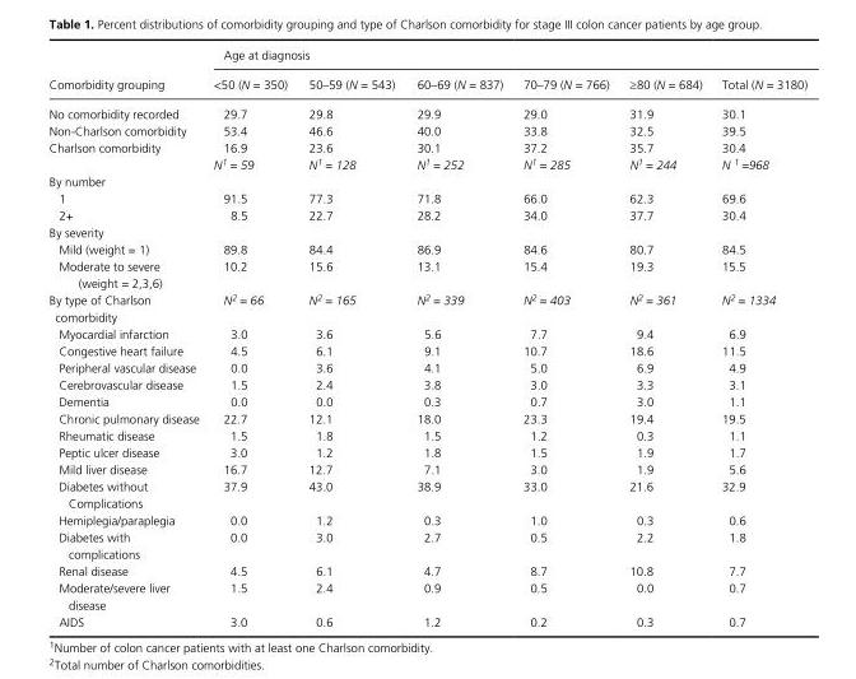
<table><thead><tr><td rowspan="2">Comorbidity grouping</td><td colspan="6">Age at diagnosis</td></tr><tr><td>&lt;50 (N = 350)</td><td>50–59 (N = 543)</td><td>60–69 (N = 837)</td><td>70–79 (N = 766)</td><td>≥80 (N = 684)</td><td>Total (N = 3180)</td></tr></thead><tbody><tr><td>No comorbidity recorded</td><td>29.7</td><td>29.8</td><td>29.9</td><td>29.0</td><td>31.9</td><td>30.1</td></tr><tr><td>Non- Charlson comorbidity</td><td>53.4</td><td>46.6</td><td>40.0</td><td>33.8</td><td>32.5</td><td>39.5</td></tr><tr><td rowspan="2">Charlson comorbidity</td><td>16.9</td><td>23.6</td><td>30.1</td><td>37.2</td><td>35.7</td><td>30.4</td></tr><tr><td>N1 = 59</td><td>N1 = 128</td><td>N1 = 252</td><td>N1 = 285</td><td>N1 = 244</td><td>N 1 =968</td></tr><tr><td colspan="7">By number</td></tr><tr><td>1</td><td>91.5</td><td>77.3</td><td>71.8</td><td>66.0</td><td>62.3</td><td>69.6</td></tr><tr><td>2+</td><td>8.5</td><td>22.7</td><td>28.2</td><td>34.0</td><td>37.7</td><td>30.4</td></tr><tr><td colspan="7">By severity</td></tr><tr><td>Mild (weight = 1)</td><td>89.8</td><td>84.4</td><td>86.9</td><td>84.6</td><td>80.7</td><td>84.5</td></tr><tr><td>Moderate to severe (weight = 2,3,6)</td><td>10.2</td><td>15.6</td><td>13.1</td><td>15.4</td><td>19.3</td><td>15.5</td></tr><tr><td>By type of Charlson comorbidity</td><td>N2 = 66</td><td>N2 = 165</td><td>N2 = 339</td><td>N2 = 403</td><td>N2 = 361</td><td>N2 = 1334</td></tr><tr><td>Myocardial infarction</td><td>3.0</td><td>3.6</td><td>5.6</td><td>7.7</td><td>9.4</td><td>6.9</td></tr><tr><td>Congestive heart failure</td><td>4.5</td><td>6.1</td><td>9.1</td><td>10.7</td><td>18.6</td><td>11.5</td></tr><tr><td>Peripheral vascular disease</td><td>0.0</td><td>3.6</td><td>4.1</td><td>5.0</td><td>6.9</td><td>4.9</td></tr><tr><td>Cerebrovascular disease</td><td>1.5</td><td>2.4</td><td>3.8</td><td>3.0</td><td>3.3</td><td>3.1</td></tr><tr><td>Dementia</td><td>0.0</td><td>0.0</td><td>0.3</td><td>0.7</td><td>3.0</td><td>1.1</td></tr><tr><td>Chronic pulmonary disease</td><td>22.7</td><td>12.1</td><td>18.0</td><td>23.3</td><td>19.4</td><td>19.5</td></tr><tr><td>Rheumatic disease</td><td>1.5</td><td>1.8</td><td>1.5</td><td>1.2</td><td>0.3</td><td>1.1</td></tr><tr><td>Peptic ulcer disease</td><td>3.0</td><td>1.2</td><td>1.8</td><td>1.5</td><td>1.9</td><td>1.7</td></tr><tr><td>Mild liver disease</td><td>16.7</td><td>12.7</td><td>7.1</td><td>3.0</td><td>1.9</td><td>5.6</td></tr><tr><td>Diabetes without Complications</td><td>37.9</td><td>43.0</td><td>38.9</td><td>33.0</td><td>21.6</td><td>32.9</td></tr><tr><td>Hemiplegia/paraplegia</td><td>0.0</td><td>1.2</td><td>0.3</td><td>1.0</td><td>0.3</td><td>0.6</td></tr><tr><td>Diabetes with complications</td><td>0.0</td><td>3.0</td><td>2.7</td><td>0.5</td><td>2.2</td><td>1.8</td></tr><tr><td>Renal disease</td><td>4.5</td><td>6.1</td><td>4.7</td><td>8.7</td><td>10.8</td><td>7.7</td></tr><tr><td>Moderate/severe liver disease</td><td>1.5</td><td>2.4</td><td>0.9</td><td>0.5</td><td>0.0</td><td>0.7</td></tr><tr><td>AIDS</td><td>3.0</td><td>0.6</td><td>1.2</td><td>0.2</td><td>0.3</td><td>0.7</td></tr></tbody></table>